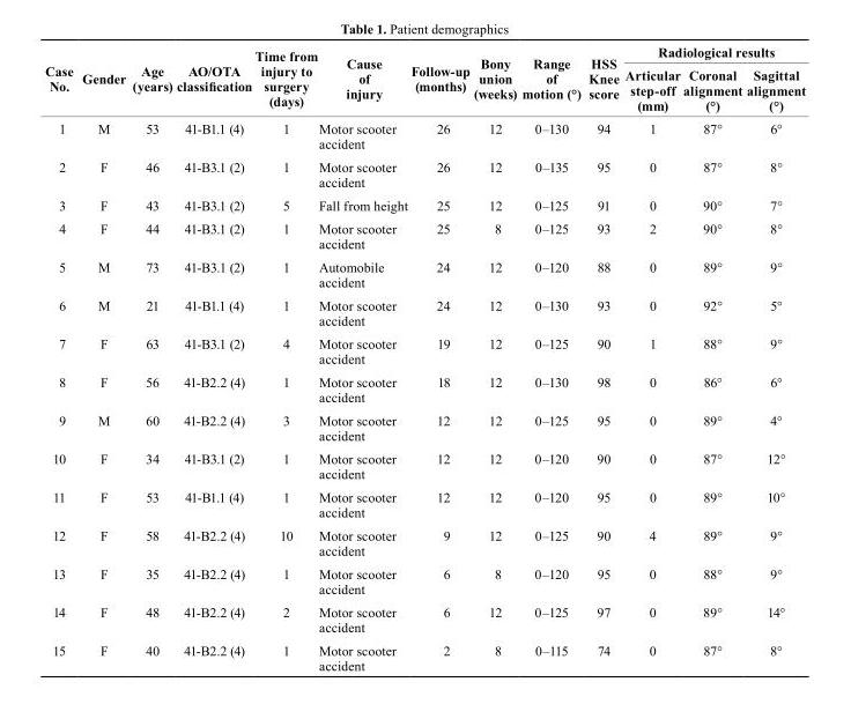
<table><thead><tr><td rowspan="2">case no.</td><td rowspan="2">Gender</td><td rowspan="2">Age (years)</td><td rowspan="2">Ao/otA classification</td><td rowspan="2">time from injury to surgery (days)</td><td rowspan="2">cause of injury</td><td rowspan="2">Follow-up (months)</td><td rowspan="2">bony union (weeks)</td><td rowspan="2">range of motion (°)</td><td rowspan="2">Hss Knee score</td><td colspan="3">radiological results</td></tr><tr><td>Articular step-off (mm)</td><td>coronal alignment (°)</td><td>sagittal alignment (°)</td></tr></thead><tbody><tr><td>1</td><td>M</td><td>53</td><td>41-B1.1 (4)</td><td>1</td><td>Motor scooter accident</td><td>26</td><td>12</td><td>0–130</td><td>94</td><td>1</td><td>87°</td><td>6°</td></tr><tr><td>2</td><td>F</td><td>46</td><td>41-B3.1 (2)</td><td>1</td><td>Motor scooter accident</td><td>26</td><td>12</td><td>0–135</td><td>95</td><td>0</td><td>87°</td><td>8°</td></tr><tr><td>3</td><td>F</td><td>43</td><td>41-B3.1 (2)</td><td>5</td><td>Fall from height</td><td>25</td><td>12</td><td>0–125</td><td>91</td><td>0</td><td>90°</td><td>7°</td></tr><tr><td>4</td><td>F</td><td>44</td><td>41-B3.1 (2)</td><td>1</td><td>Motor scooter accident</td><td>25</td><td>8</td><td>0–125</td><td>93</td><td>2</td><td>90°</td><td>8°</td></tr><tr><td>5</td><td>M</td><td>73</td><td>41-B3.1 (2)</td><td>1</td><td>Automobile accident</td><td>24</td><td>12</td><td>0–120</td><td>88</td><td>0</td><td>89°</td><td>9°</td></tr><tr><td>6</td><td>M</td><td>21</td><td>41-B1.1 (4)</td><td>1</td><td>Motor scooter accident</td><td>24</td><td>12</td><td>0–130</td><td>93</td><td>0</td><td>92°</td><td>5°</td></tr><tr><td>7</td><td>F</td><td>63</td><td>41-B3.1 (2)</td><td>4</td><td>Motor scooter accident</td><td>19</td><td>12</td><td>0–125</td><td>90</td><td>1</td><td>88°</td><td>9°</td></tr><tr><td>8</td><td>F</td><td>56</td><td>41-B2.2 (4)</td><td>1</td><td>Motor scooter accident</td><td>18</td><td>12</td><td>0–130</td><td>98</td><td>0</td><td>86°</td><td>6°</td></tr><tr><td>9</td><td>M</td><td>60</td><td>41-B2.2 (4)</td><td>3</td><td>Motor scooter accident</td><td>12</td><td>12</td><td>0–125</td><td>95</td><td>0</td><td>89°</td><td>4°</td></tr><tr><td>10</td><td>F</td><td>34</td><td>41-B3.1 (2)</td><td>1</td><td>Motor scooter accident</td><td>12</td><td>12</td><td>0–120</td><td>90</td><td>0</td><td>87°</td><td>12°</td></tr><tr><td>11</td><td>F</td><td>53</td><td>41-B1.1 (4)</td><td>1</td><td>Motor scooter accident</td><td>12</td><td>12</td><td>0–120</td><td>95</td><td>0</td><td>89°</td><td>10°</td></tr><tr><td>12</td><td>F</td><td>58</td><td>41-B2.2 (4)</td><td>10</td><td>Motor scooter accident</td><td>9</td><td>12</td><td>0–125</td><td>90</td><td>4</td><td>89°</td><td>9°</td></tr><tr><td>13</td><td>F</td><td>35</td><td>41-B2.2 (4)</td><td>1</td><td>Motor scooter accident</td><td>6</td><td>8</td><td>0–120</td><td>95</td><td>0</td><td>88°</td><td>9°</td></tr><tr><td>14</td><td>F</td><td>48</td><td>41-B2.2 (4)</td><td>2</td><td>Motor scooter accident</td><td>6</td><td>12</td><td>0–125</td><td>97</td><td>0</td><td>89°</td><td>14°</td></tr><tr><td>15</td><td>F</td><td>40</td><td>41-B2.2 (4)</td><td>1</td><td>Motor scooter accident</td><td>2</td><td>8</td><td>0–115</td><td>74</td><td>0</td><td>87°</td><td>8°</td></tr></tbody></table>